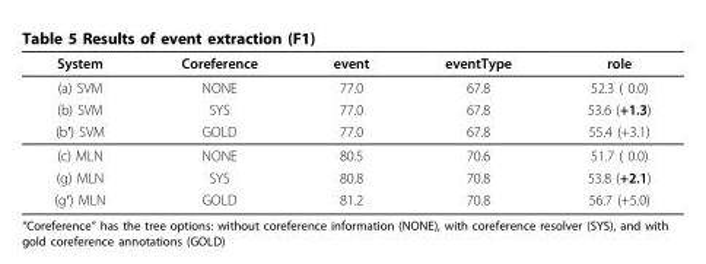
<table><thead><tr><td>System</td><td>Coreference</td><td>event</td><td>eventType</td><td>role</td></tr></thead><tbody><tr><td>(a) SVM</td><td>NONE</td><td>77.0</td><td>67.8</td><td>52.3 ( 0.0)</td></tr><tr><td>(b) SVM</td><td>SYS</td><td>77.0</td><td>67.8</td><td>53.6 (+1.3)</td></tr><tr><td>(b′) SVM</td><td>GOLD</td><td>77.0</td><td>67.8</td><td>55.4 (+3.1)</td></tr><tr><td>(c) MLN</td><td>NONE</td><td>80.5</td><td>70.6</td><td>51.7 ( 0.0)</td></tr><tr><td>(g) MLN</td><td>SYS</td><td>80.8</td><td>70.8</td><td>53.8 (+2.1)</td></tr><tr><td>(g′) MLN</td><td>GOLD</td><td>81.2</td><td>70.8</td><td>56.7 (+5.0)</td></tr></tbody></table>